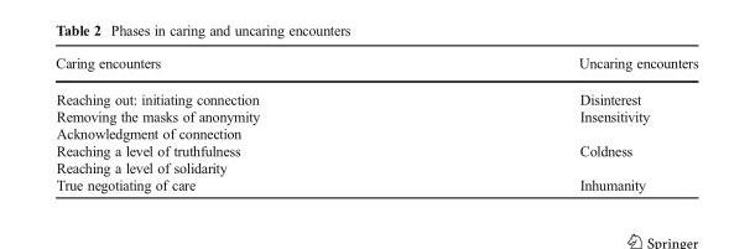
<table><thead><tr><td>Caring encounters</td><td>Uncaring encounters</td></tr></thead><tbody><tr><td>Reaching out: initiating connection</td><td>Disinterest</td></tr><tr><td>Removing the masks of anonymity</td><td rowspan="2">Insensitivity</td></tr><tr><td>Acknowledgment of connection</td></tr><tr><td>Reaching a level of truthfulness</td><td rowspan="2">Coldness</td></tr><tr><td>Reaching a level of solidarity</td></tr><tr><td>True negotiating of care</td><td>Inhumanity</td></tr></tbody></table>